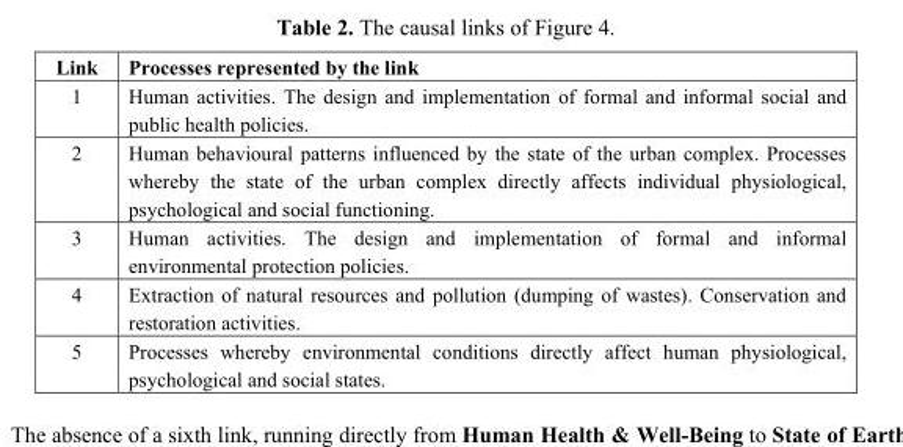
<table><thead><tr><td>Link</td><td>Processes represented by the link</td></tr></thead><tbody><tr><td>1</td><td>Human activities. The design and implementation of formal and informal social and public health policies.</td></tr><tr><td>2</td><td>Human behavioural patterns influenced by the state of the urban complex. Processes whereby the state of the urban complex directly affects individual physiological, psychological and social functioning.</td></tr><tr><td>3</td><td>Human activities. The design and implementation of formal and informal environmental protection policies.</td></tr><tr><td>4</td><td>Extraction of natural resources and pollution (dumping of wastes). Conservation and restoration activities.</td></tr><tr><td>5</td><td>Processes whereby environmental conditions directly affect human physiological, psychological and social states.</td></tr></tbody></table>